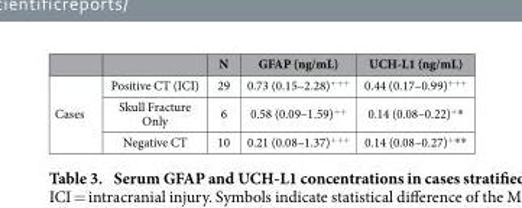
<table><thead><tr><td></td><td></td><td>N</td><td>GFAP (ng/mL)</td><td>UCH-L1 (ng/mL)</td></tr></thead><tbody><tr><td rowspan="3">Cases</td><td>Positive CT (ICI)</td><td>29</td><td>0.73 (0.15–2.28)+++</td><td>0.44 (0.17–0.99)+++</td></tr><tr><td>Skull Fracture Only</td><td>6</td><td>0.58 (0.09–1.59)++</td><td>0.14 (0.08–0.22)+*</td></tr><tr><td>Negative CT</td><td>10</td><td>0.21 (0.08–1.37)+++</td><td>0.14 (0.08–0.27)+* *</td></tr></tbody></table>